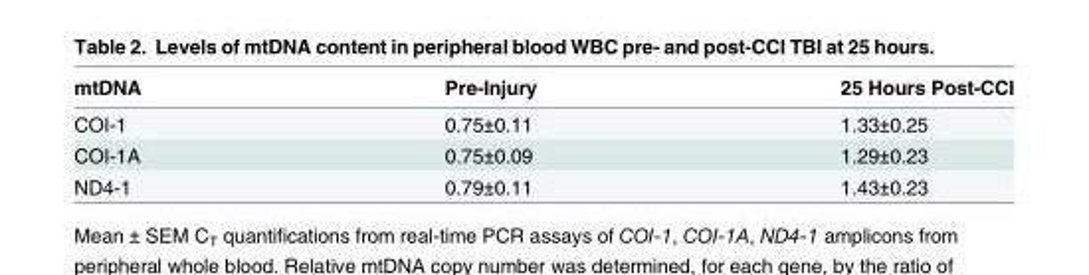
<table><thead><tr><td>mtDNA</td><td>Pre-Injury</td><td>25 Hours Post-CCI</td></tr></thead><tbody><tr><td>COI-1</td><td>0.75±0.11</td><td>1.33±0.25</td></tr><tr><td>COI-1A</td><td>0.75±0.09</td><td>1.29±0.23</td></tr><tr><td>ND4-1</td><td>0.79±0.11</td><td>1.43±0.23</td></tr></tbody></table>